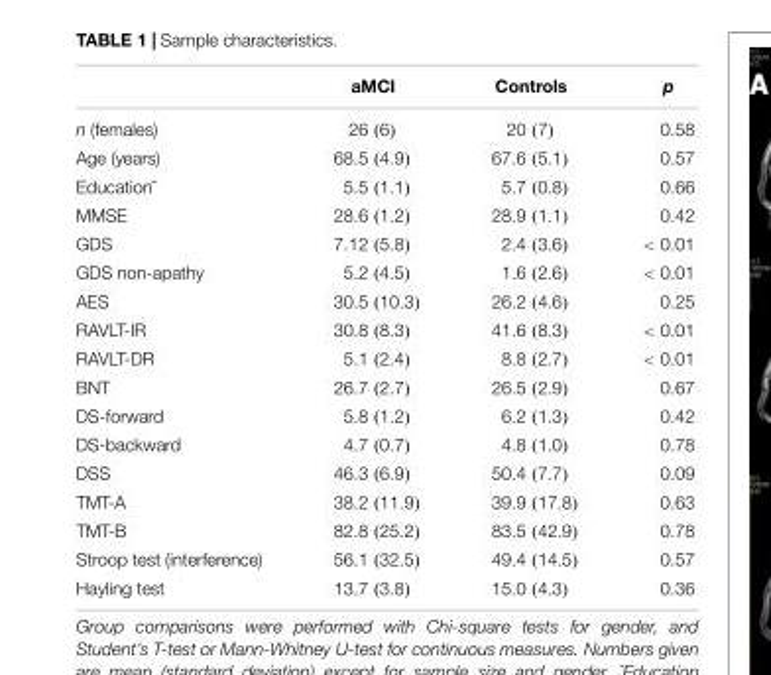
<table><thead><tr><td></td><td>aMCI</td><td>Controls</td><td>p</td></tr></thead><tbody><tr><td>n (females)</td><td>26 (6)</td><td>20 (7)</td><td>0.58</td></tr><tr><td>Age (years)</td><td>68.5 (4.9)</td><td>67.6 (5.1)</td><td>0.57</td></tr><tr><td>Educationˆ</td><td>5.5 (1.1)</td><td>5.7 (0.8)</td><td>0.66</td></tr><tr><td>MMSE</td><td>28.6 (1.2)</td><td>28.9 (1.1)</td><td>0.42</td></tr><tr><td>GDS</td><td>7.12 (5.8)</td><td>2.4 (3.6)</td><td>&lt; 0.01</td></tr><tr><td>GDS non-apathy</td><td>5.2 (4.5)</td><td>1.6 (2.6)</td><td>&lt; 0.01</td></tr><tr><td>AES</td><td>30.5 (10.3)</td><td>26.2 (4.6)</td><td>0.25</td></tr><tr><td>RAVLT-IR</td><td>30.8 (8.3)</td><td>41.6 (8.3)</td><td>&lt; 0.01</td></tr><tr><td>RAVLT-DR</td><td>5.1 (2.4)</td><td>8.8 (2.7)</td><td>&lt; 0.01</td></tr><tr><td>BNT</td><td>26.7 (2.7)</td><td>26.5 (2.9)</td><td>0.67</td></tr><tr><td>DS-forward</td><td>5.8 (1.2)</td><td>6.2 (1.3)</td><td>0.42</td></tr><tr><td>DS-backward</td><td>4.7 (0.7)</td><td>4.8 (1.0)</td><td>0.78</td></tr><tr><td>DSS</td><td>46.3 (6.9)</td><td>50.4 (7.7)</td><td>0.09</td></tr><tr><td>TMT-A</td><td>38.2 (11.9)</td><td>39.9 (17.8)</td><td>0.63</td></tr><tr><td>TMT-B</td><td>82.8 (25.2)</td><td>83.5 (42.9)</td><td>0.78</td></tr><tr><td>Stroop test (interference)</td><td>56.1 (32.5)</td><td>49.4 (14.5)</td><td>0.57</td></tr><tr><td>Hayling test</td><td>13.7 (3.8)</td><td>15.0 (4.3)</td><td>0.36</td></tr></tbody></table>